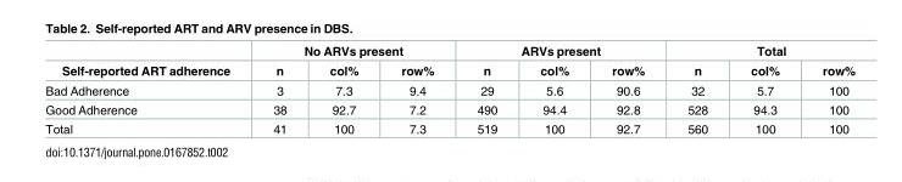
<table><thead><tr><td rowspan="2">Self-reported ART adherence</td><td colspan="3">No ARVs present</td><td colspan="3">ARVs present</td><td colspan="3">Total</td></tr><tr><td>n</td><td>col%</td><td>row%</td><td>n</td><td>col%</td><td>row%</td><td>n</td><td>col%</td><td>row%</td></tr></thead><tbody><tr><td>Bad Adherence</td><td>3</td><td>7.3</td><td>9.4</td><td>29</td><td>5.6</td><td>90.6</td><td>32</td><td>5.7</td><td>100</td></tr><tr><td>Good Adherence</td><td>38</td><td>92.7</td><td>7.2</td><td>490</td><td>94.4</td><td>92.8</td><td>528</td><td>94.3</td><td>100</td></tr><tr><td>Total</td><td>41</td><td>100</td><td>7.3</td><td>519</td><td>100</td><td>92.7</td><td>560</td><td>100</td><td>100</td></tr></tbody></table>